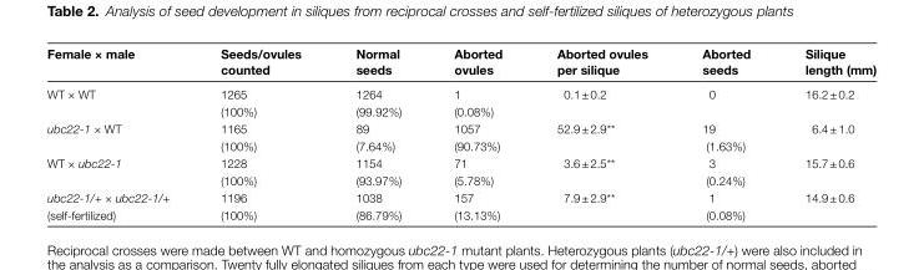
<table><thead><tr><td>Female × male</td><td>Seeds/ovules counted</td><td>Normal seeds</td><td>Aborted ovules</td><td>Aborted ovules per silique</td><td>Aborted seeds</td><td>Silique length (mm)</td></tr></thead><tbody><tr><td>WT × WT</td><td>1265 (100%)</td><td>1264 (99.92%)</td><td>1 (0.08%)</td><td>0.1 ± 0.2</td><td>0</td><td>16.2 ± 0.2</td></tr><tr><td>ubc22-1 × WT</td><td>1165 (100%)</td><td>89 (7.64%)</td><td>1057 (90.73%)</td><td>52.9 ± 2.9**</td><td>19 (1.63%)</td><td>6.4 ± 1.0</td></tr><tr><td>WT × ubc22-1</td><td>1228 (100%)</td><td>1154 (93.97%)</td><td>71 (5.78%)</td><td>3.6 ± 2.5**</td><td>3 (0.24%)</td><td>15.7 ± 0.6</td></tr><tr><td>ubc22-1/+ × ubc22-1/+ (self-fertilized)</td><td>1196 (100%)</td><td>1038 (86.79%)</td><td>157 (13.13%)</td><td>7.9 ± 2.9**</td><td>1 (0.08%)</td><td>14.9 ± 0.6</td></tr></tbody></table>